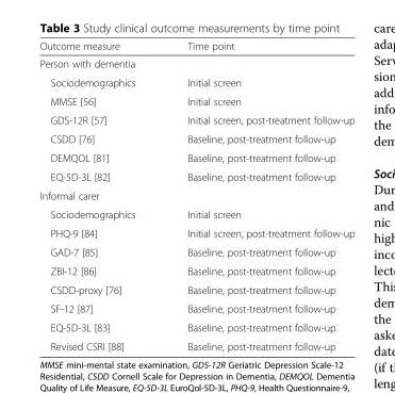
<table><thead><tr><td>Outcome measure</td><td>Time point</td></tr></thead><tbody><tr><td colspan="2">Person with dementia</td></tr><tr><td>Sociodemographics</td><td>Initial screen</td></tr><tr><td>MMSE [56]</td><td>Initial screen</td></tr><tr><td>GDS-12R [57]</td><td>Initial screen, post-treatment follow-up</td></tr><tr><td>CSDD [76]</td><td>Baseline, post-treatment follow-up</td></tr><tr><td>DEMQOL [81]</td><td>Baseline, post-treatment follow-up</td></tr><tr><td>EQ-5D-3L [82]</td><td>Baseline, post-treatment follow-up</td></tr><tr><td colspan="2">Informal carer</td></tr><tr><td>Sociodemographics</td><td>Initial screen</td></tr><tr><td>PHQ-9 [84]</td><td>Initial screen, post-treatment follow-up</td></tr><tr><td>GAD-7 [85]</td><td>Baseline, post-treatment follow-up</td></tr><tr><td>ZBI-12 [86]</td><td>Baseline, post-treatment follow-up</td></tr><tr><td>CSDD-proxy [76]</td><td>Baseline, post-treatment follow-up</td></tr><tr><td>SF-12 [87]</td><td>Baseline, post-treatment follow-up</td></tr><tr><td>EQ-5D-3L [83]</td><td>Baseline, post-treatment follow-up</td></tr><tr><td>Revised CSRI [88]</td><td>Baseline, post-treatment follow-up</td></tr></tbody></table>